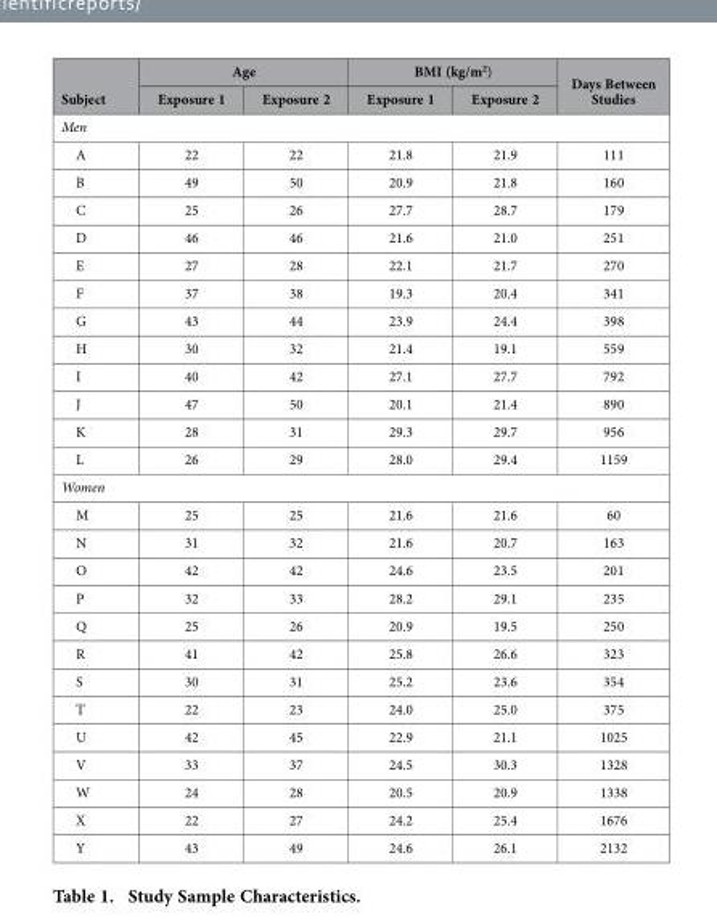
<table><thead><tr><td rowspan="2">Subject</td><td colspan="2">Age</td><td colspan="2">BMI (kg/m<sup>2</sup>)</td><td rowspan="2">Days Between Studies</td></tr><tr><td>Exposure 1</td><td>Exposure 2</td><td>Exposure 1</td><td>Exposure 2</td></tr></thead><tbody><tr><td colspan="6">Men</td></tr><tr><td>A</td><td>22</td><td>22</td><td>21.8</td><td>21.9</td><td>111</td></tr><tr><td>B</td><td>49</td><td>50</td><td>20.9</td><td>21.8</td><td>160</td></tr><tr><td>C</td><td>25</td><td>26</td><td>27.7</td><td>28.7</td><td>179</td></tr><tr><td>D</td><td>46</td><td>46</td><td>21.6</td><td>21.0</td><td>251</td></tr><tr><td>E</td><td>27</td><td>28</td><td>22.1</td><td>21.7</td><td>270</td></tr><tr><td>F</td><td>37</td><td>38</td><td>19.3</td><td>20.4</td><td>341</td></tr><tr><td>G</td><td>43</td><td>44</td><td>23.9</td><td>24.4</td><td>398</td></tr><tr><td>H</td><td>30</td><td>32</td><td>21.4</td><td>19.1</td><td>559</td></tr><tr><td>I</td><td>40</td><td>42</td><td>27.1</td><td>27.7</td><td>792</td></tr><tr><td>J</td><td>47</td><td>50</td><td>20.1</td><td>21.4</td><td>890</td></tr><tr><td>K</td><td>28</td><td>31</td><td>29.3</td><td>29.7</td><td>956</td></tr><tr><td>L</td><td>26</td><td>29</td><td>28.0</td><td>29.4</td><td>1159</td></tr><tr><td colspan="6">Women</td></tr><tr><td>M</td><td>25</td><td>25</td><td>21.6</td><td>21.6</td><td>60</td></tr><tr><td>N</td><td>31</td><td>32</td><td>21.6</td><td>20.7</td><td>163</td></tr><tr><td>O</td><td>42</td><td>42</td><td>24.6</td><td>23.5</td><td>201</td></tr><tr><td>P</td><td>32</td><td>33</td><td>28.2</td><td>29.1</td><td>235</td></tr><tr><td>Q</td><td>25</td><td>26</td><td>20.9</td><td>19.5</td><td>250</td></tr><tr><td>R</td><td>41</td><td>42</td><td>25.8</td><td>26.6</td><td>323</td></tr><tr><td>S</td><td>30</td><td>31</td><td>25.2</td><td>23.6</td><td>354</td></tr><tr><td>T</td><td>22</td><td>23</td><td>24.0</td><td>25.0</td><td>375</td></tr><tr><td>U</td><td>42</td><td>45</td><td>22.9</td><td>21.1</td><td>1025</td></tr><tr><td>V</td><td>33</td><td>37</td><td>24.5</td><td>30.3</td><td>1328</td></tr><tr><td>W</td><td>24</td><td>28</td><td>20.5</td><td>20.9</td><td>1338</td></tr><tr><td>X</td><td>22</td><td>27</td><td>24.2</td><td>25.4</td><td>1676</td></tr><tr><td>Y</td><td>43</td><td>49</td><td>24.6</td><td>26.1</td><td>2132</td></tr></tbody></table>